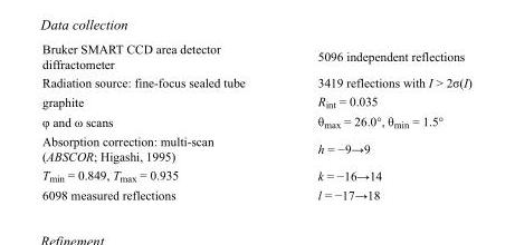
<table><tbody><tr><td>Bruker SMART CCD area detector diffractometer</td><td>5096 independent reflections</td></tr><tr><td>Radiation source: fine-focus sealed tube</td><td>3419 reflections with I &gt; 2σ(I)</td></tr><tr><td>graphite</td><td>R<sub>int</sub> = 0.035</td></tr><tr><td>φ and ω scans</td><td>θ<sub>max</sub> = 26.0°, θ<sub>min</sub> = 1.5°</td></tr><tr><td>Absorption correction: multi-scan (ABSCOR; Higashi, 1995)</td><td>h = −9→9</td></tr><tr><td>T<sub>min</sub> = 0.849, T<sub>max</sub> = 0.935</td><td>k = −16→14</td></tr><tr><td>6098 measured reflections</td><td>l = −17→18</td></tr></tbody></table>